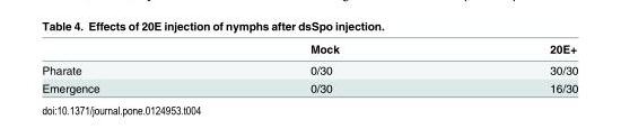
<table><thead><tr><td></td><td>Mock</td><td>20E+</td></tr></thead><tbody><tr><td>Pharate</td><td>0/30</td><td>30/30</td></tr><tr><td>Emergence</td><td>0/30</td><td>16/30</td></tr></tbody></table>